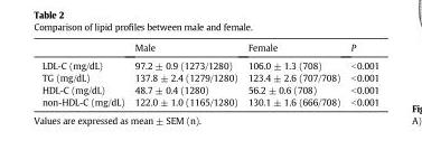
<table><thead><tr><td></td><td>Male</td><td>Female</td><td>P</td></tr></thead><tbody><tr><td>LDL-C (mg/dL)</td><td>97.2 ± 0.9 (1273/1280)</td><td>106.0 ± 1.3 (708)</td><td>&lt;0.001</td></tr><tr><td>TG (mg/dL)</td><td>137.8 ± 2.4 (1279/1280)</td><td>123.4 ± 2.6 (707/708)</td><td>&lt;0.001</td></tr><tr><td>HDL-C (mg/dL)</td><td>48.7 ± 0.4 (1280)</td><td>56.2 ± 0.6 (708)</td><td>&lt;0.001</td></tr><tr><td>non-HDL-C (mg/dL)</td><td>122.0 ± 1.0 (1165/1280)</td><td>130.1 ± 1.6 (666/708)</td><td>&lt;0.001</td></tr></tbody></table>